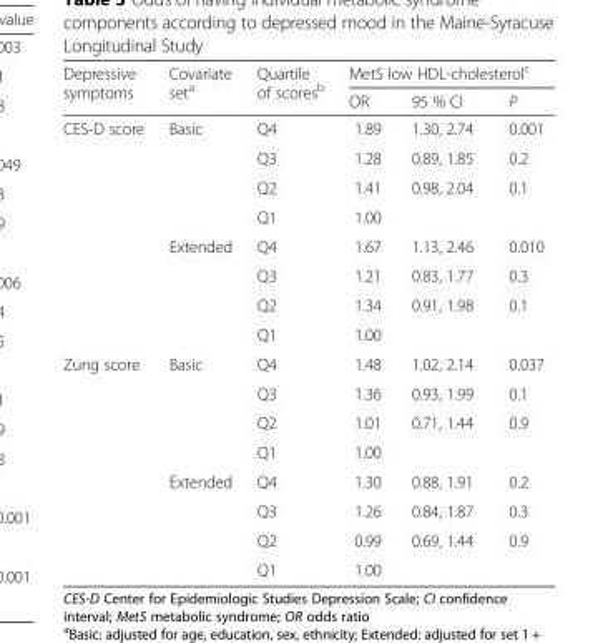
<table><thead><tr><td rowspan="2">Depressive symptoms</td><td rowspan="2">Covariate set<sup>a</sup></td><td rowspan="2">Quartile of scores<sup>b</sup></td><td colspan="3">MetS low HDL-cholesterol<sup>c</sup></td></tr><tr><td>OR</td><td>95 % CI</td><td>P</td></tr></thead><tbody><tr><td rowspan="8">CES-D score</td><td>Basic</td><td>Q4</td><td>1.89</td><td>1.30, 2.74</td><td>0.001</td></tr><tr><td></td><td>Q3</td><td>1.28</td><td>0.89, 1.85</td><td>0.2</td></tr><tr><td></td><td>Q2</td><td>1.41</td><td>0.98, 2.04</td><td>0.1</td></tr><tr><td></td><td>Q1</td><td>1.00</td><td></td><td></td></tr><tr><td>Extended</td><td>Q4</td><td>1.67</td><td>1.13, 2.46</td><td>0.010</td></tr><tr><td></td><td>Q3</td><td>1.21</td><td>0.83, 1.77</td><td>0.3</td></tr><tr><td></td><td>Q2</td><td>1.34</td><td>0.91, 1.98</td><td>0.1</td></tr><tr><td></td><td>Q1</td><td>1.00</td><td></td><td></td></tr><tr><td rowspan="8">Zung score</td><td>Basic</td><td>Q4</td><td>1.48</td><td>1.02, 2.14</td><td>0.037</td></tr><tr><td></td><td>Q3</td><td>1.36</td><td>0.93, 1.99</td><td>0.1</td></tr><tr><td></td><td>Q2</td><td>1.01</td><td>0.71, 1.44</td><td>0.9</td></tr><tr><td></td><td>Q1</td><td>1.00</td><td></td><td></td></tr><tr><td>Extended</td><td>Q4</td><td>1.30</td><td>0.88, 1.91</td><td>0.2</td></tr><tr><td></td><td>Q3</td><td>1.26</td><td>0.84, 1.87</td><td>0.3</td></tr><tr><td></td><td>Q2</td><td>0.99</td><td>0.69, 1.44</td><td>0.9</td></tr><tr><td></td><td>Q1</td><td>1.00</td><td></td><td></td></tr></tbody></table>